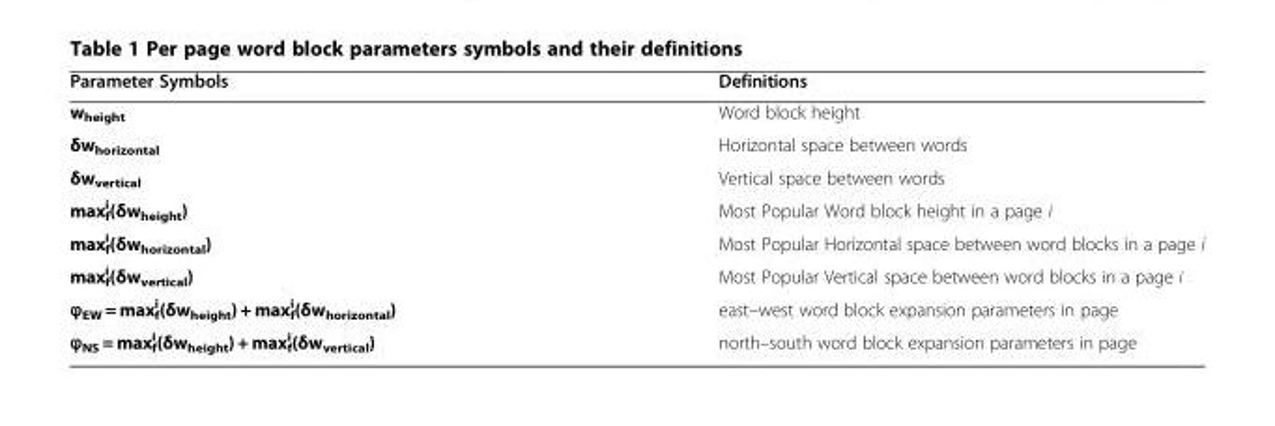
<table><thead><tr><td>Parameter Symbols</td><td>Definitions</td></tr></thead><tbody><tr><td>w<sub>height</sub></td><td>Word block height</td></tr><tr><td>δw<sub>horizontal</sub></td><td>Horizontal space between words</td></tr><tr><td>δw<sub>vertical</sub></td><td>Vertical space between words</td></tr><tr><td>max<sup>i</sup> <sub>f</sub>(δw<sub>height</sub>)</td><td>Most Popular Word block height in a page i</td></tr><tr><td>max<sup>i</sup> <sub>f</sub>(δw<sub>horizontal</sub>)</td><td>Most Popular Horizontal space between word blocks in a page i</td></tr><tr><td>max<sup>i</sup> <sub>f</sub>(δw<sub>vertical</sub>)</td><td>Most Popular Vertical space between word blocks in a page i</td></tr><tr><td>ϕEW = maxi f(δwheight) + maxi f(δwhorizontal)</td><td>east–west word block expansion parameters in page</td></tr><tr><td>ϕNS = maxi f(δwheight) + maxi f(δwvertical)</td><td>north–south word block expansion parameters in page</td></tr></tbody></table>